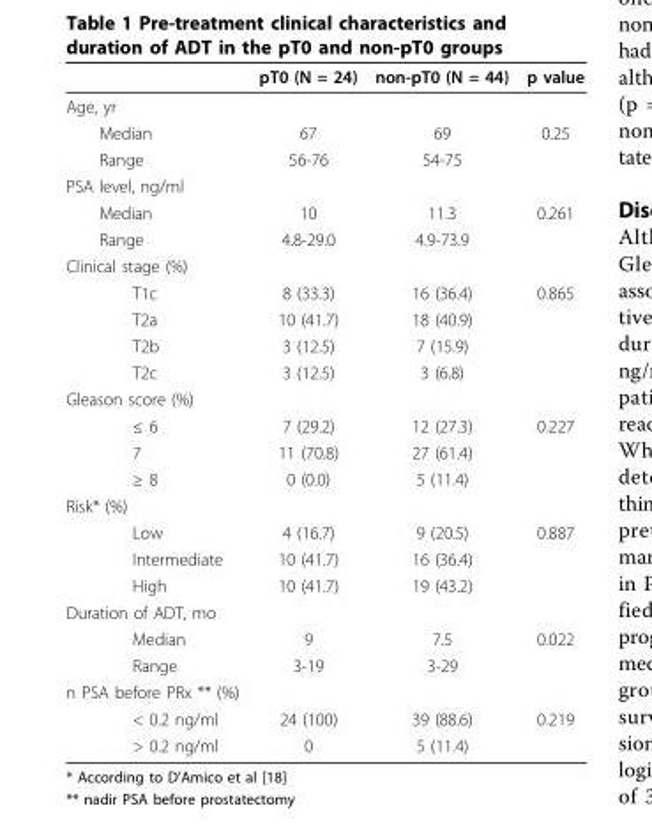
<table><thead><tr><td></td><td>pT0 (N = 24)</td><td>non-pT0 (N = 44)</td><td>p value</td></tr></thead><tbody><tr><td colspan="4">Age, yr</td></tr><tr><td>Median</td><td>67</td><td>69</td><td>0.25</td></tr><tr><td>Range</td><td>56-76</td><td>54-75</td><td></td></tr><tr><td colspan="4">PSA level, ng/ml</td></tr><tr><td>Median</td><td>10</td><td>11.3</td><td>0.261</td></tr><tr><td>Range</td><td>4.8-29.0</td><td>4.9-73.9</td><td></td></tr><tr><td colspan="4">Clinical stage (%)</td></tr><tr><td>T1c</td><td>8 (33.3)</td><td>16 (36.4)</td><td>0.865</td></tr><tr><td>T2a</td><td>10 (41.7)</td><td>18 (40.9)</td><td></td></tr><tr><td>T2b</td><td>3 (12.5)</td><td>7 (15.9)</td><td></td></tr><tr><td>T2c</td><td>3 (12.5)</td><td>3 (6.8)</td><td></td></tr><tr><td colspan="4">Gleason score (%)</td></tr><tr><td>≤ 6</td><td>7 (29.2)</td><td>12 (27.3)</td><td>0.227</td></tr><tr><td>7</td><td>11 (70.8)</td><td>27 (61.4)</td><td></td></tr><tr><td>≥ 8</td><td>0 (0.0)</td><td>5 (11.4)</td><td></td></tr><tr><td colspan="4">Risk* (%)</td></tr><tr><td>Low</td><td>4 (16.7)</td><td>9 (20.5)</td><td>0.887</td></tr><tr><td>Intermediate</td><td>10 (41.7)</td><td>16 (36.4)</td><td></td></tr><tr><td>High</td><td>10 (41.7)</td><td>19 (43.2)</td><td></td></tr><tr><td colspan="4">Duration of ADT, mo</td></tr><tr><td>Median</td><td>9</td><td>7.5</td><td>0.022</td></tr><tr><td>Range</td><td>3-19</td><td>3-29</td><td></td></tr><tr><td colspan="4">n PSA before PRx ** (%)</td></tr><tr><td>&lt; 0.2 ng/ml</td><td>24 (100)</td><td>39 (88.6)</td><td>0.219</td></tr><tr><td>&gt; 0.2 ng/ml</td><td>0</td><td>5 (11.4)</td><td></td></tr></tbody></table>